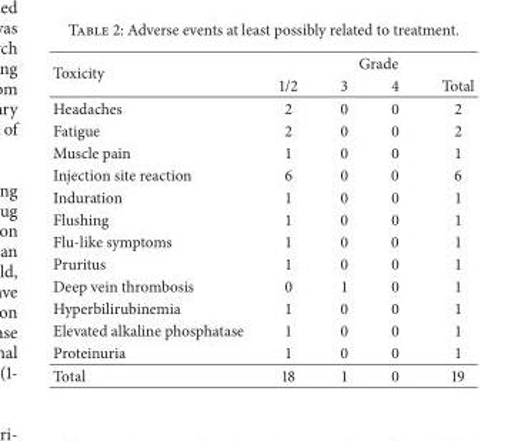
<table><thead><tr><td rowspan="2">Toxicity</td><td colspan="4">Grade</td></tr><tr><td>1/2</td><td>3</td><td>4</td><td>Total</td></tr></thead><tbody><tr><td>Headaches</td><td>2</td><td>0</td><td>0</td><td>2</td></tr><tr><td>Fatigue</td><td>2</td><td>0</td><td>0</td><td>2</td></tr><tr><td>Muscle pain</td><td>1</td><td>0</td><td>0</td><td>1</td></tr><tr><td>Injection site reaction</td><td>6</td><td>0</td><td>0</td><td>6</td></tr><tr><td>Induration</td><td>1</td><td>0</td><td>0</td><td>1</td></tr><tr><td>Flushing</td><td>1</td><td>0</td><td>0</td><td>1</td></tr><tr><td>Flu-like symptoms</td><td>1</td><td>0</td><td>0</td><td>1</td></tr><tr><td>Pruritus</td><td>1</td><td>0</td><td>0</td><td>1</td></tr><tr><td>Deep vein thrombosis</td><td>0</td><td>1</td><td>0</td><td>1</td></tr><tr><td>Hyperbilirubinemia</td><td>1</td><td>0</td><td>0</td><td>1</td></tr><tr><td>Elevated alkaline phosphatase</td><td>1</td><td>0</td><td>0</td><td>1</td></tr><tr><td>Proteinuria</td><td>1</td><td>0</td><td>0</td><td>1</td></tr><tr><td>Total</td><td>18</td><td>1</td><td>0</td><td>19</td></tr></tbody></table>